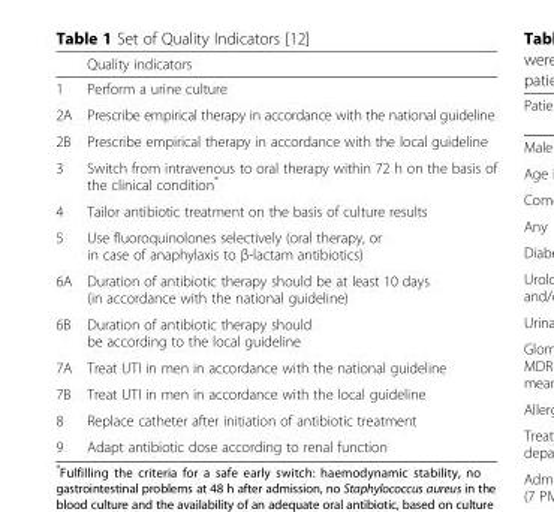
<table><thead><tr><td></td><td>Quality indicators</td></tr></thead><tbody><tr><td>1</td><td>Perform a urine culture</td></tr><tr><td>2A</td><td>Prescribe empirical therapy in accordance with the national guideline</td></tr><tr><td>2B</td><td>Prescribe empirical therapy in accordance with the local guideline</td></tr><tr><td>3</td><td>Switch from intravenous to oral therapy within 72 h on the basis of the clinical condition*</td></tr><tr><td>4</td><td>Tailor antibiotic treatment on the basis of culture results</td></tr><tr><td>5</td><td>Use fluoroquinolones selectively (oral therapy, or in case of anaphylaxis to β-lactam antibiotics)</td></tr><tr><td>6A</td><td>Duration of antibiotic therapy should be at least 10 days (in accordance with the national guideline)</td></tr><tr><td>6B</td><td>Duration of antibiotic therapy should be according to the local guideline</td></tr><tr><td>7A</td><td>Treat UTI in men in accordance with the national guideline</td></tr><tr><td>7B</td><td>Treat UTI in men in accordance with the local guideline</td></tr><tr><td>8</td><td>Replace catheter after initiation of antibiotic treatment</td></tr><tr><td>9</td><td>Adapt antibiotic dose according to renal function</td></tr></tbody></table>